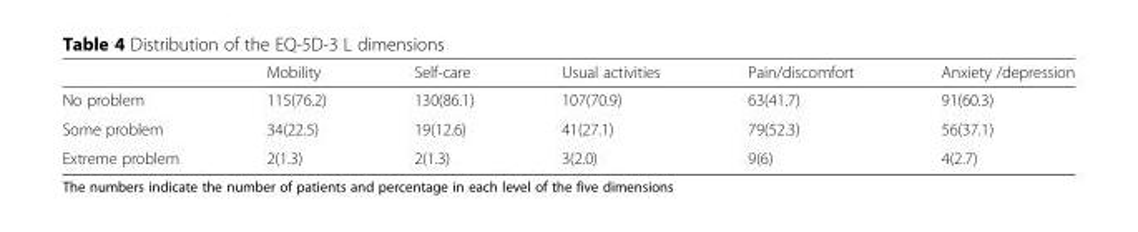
<table><thead><tr><td></td><td>Mobility</td><td>Self-care</td><td>Usual activities</td><td>Pain/discomfort</td><td>Anxiety /depression</td></tr></thead><tbody><tr><td>No problem</td><td>115(76.2)</td><td>130(86.1)</td><td>107(70.9)</td><td>63(41.7)</td><td>91(60.3)</td></tr><tr><td>Some problem</td><td>34(22.5)</td><td>19(12.6)</td><td>41(27.1)</td><td>79(52.3)</td><td>56(37.1)</td></tr><tr><td>Extreme problem</td><td>2(1.3)</td><td>2(1.3)</td><td>3(2.0)</td><td>9(6)</td><td>4(2.7)</td></tr></tbody></table>